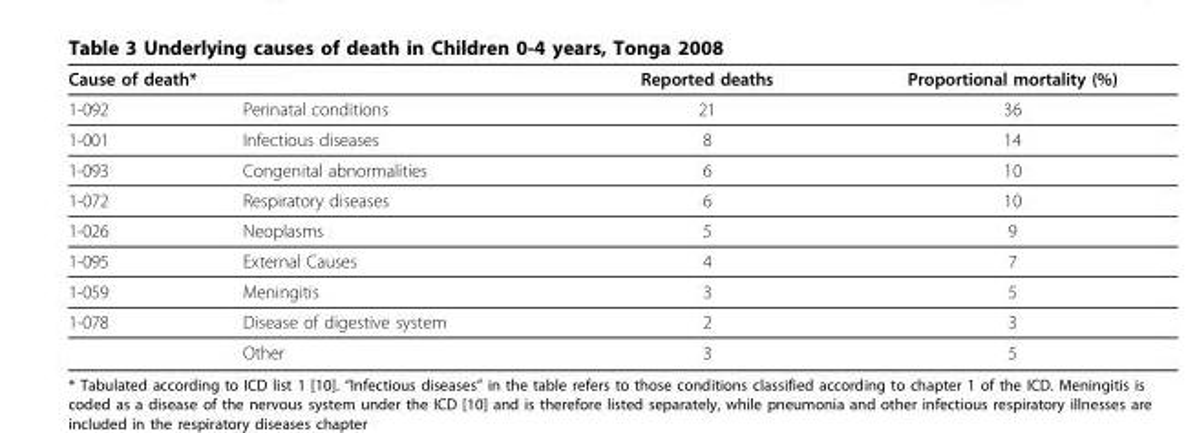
<table><thead><tr><td colspan="2">Cause of death*</td><td rowspan="2">Reported deaths 21</td><td rowspan="2">Proportional mortality (%) 36</td></tr><tr><td>1-092</td><td>Perinatal conditions</td></tr></thead><tbody><tr><td>1-001</td><td>Infectious diseases</td><td>8</td><td>14</td></tr><tr><td>1-093</td><td>Congenital abnormalities</td><td>6</td><td>10</td></tr><tr><td>1-072</td><td>Respiratory diseases</td><td>6</td><td>10</td></tr><tr><td>1-026</td><td>Neoplasms</td><td>5</td><td>9</td></tr><tr><td>1-095</td><td>External Causes</td><td>4</td><td>7</td></tr><tr><td>1-059</td><td>Meningitis</td><td>3</td><td>5</td></tr><tr><td rowspan="2">1-078</td><td>Disease of digestive system</td><td>2</td><td>3</td></tr><tr><td>Other</td><td>3</td><td>5</td></tr></tbody></table>